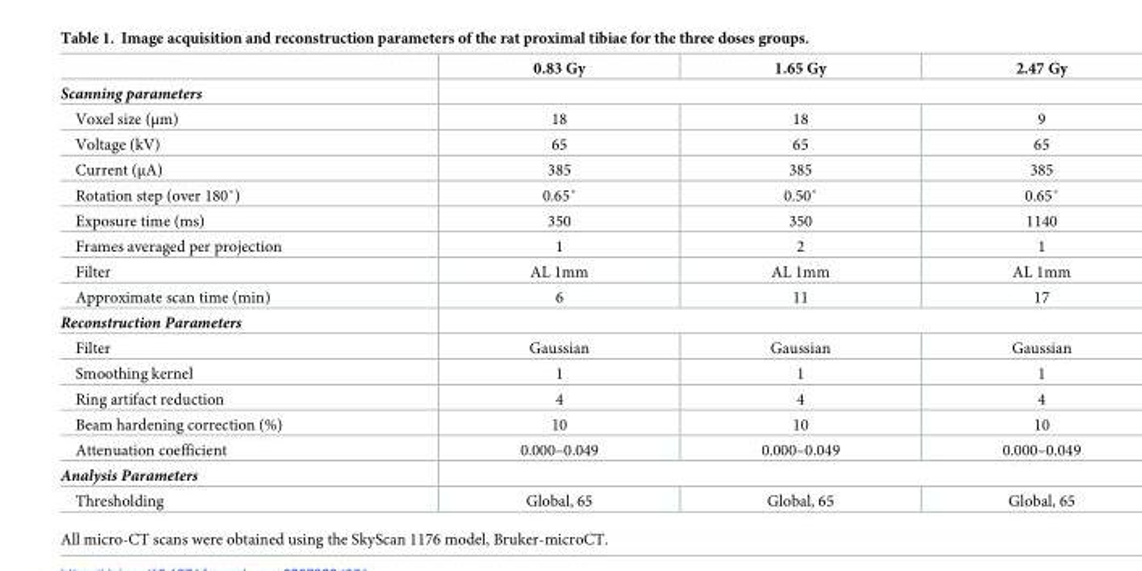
<table><thead><tr><td></td><td>0.83 Gy</td><td>1.65 Gy</td><td>2.47 Gy</td></tr></thead><tbody><tr><td colspan="4">Scanning parameters</td></tr><tr><td>Voxel size (μm)</td><td>18</td><td>18</td><td>9</td></tr><tr><td>Voltage (kV)</td><td>65</td><td>65</td><td>65</td></tr><tr><td>Current (μA)</td><td>385</td><td>385</td><td>385</td></tr><tr><td>Rotation step (over 180˚)</td><td>0.65˚</td><td>0.50˚</td><td>0.65˚</td></tr><tr><td>Exposure time (ms)</td><td>350</td><td>350</td><td>1140</td></tr><tr><td>Frames averaged per projection</td><td>1</td><td>2</td><td>1</td></tr><tr><td>Filter</td><td>AL 1mm</td><td>AL 1mm</td><td>AL 1mm</td></tr><tr><td>Approximate scan time (min)</td><td>6</td><td>11</td><td>17</td></tr><tr><td colspan="4">Reconstruction Parameters</td></tr><tr><td>Filter</td><td>Gaussian</td><td>Gaussian</td><td>Gaussian</td></tr><tr><td>Smoothing kernel</td><td>1</td><td>1</td><td>1</td></tr><tr><td>Ring artifact reduction</td><td>4</td><td>4</td><td>4</td></tr><tr><td>Beam hardening correction (%)</td><td>10</td><td>10</td><td>10</td></tr><tr><td>Attenuation coefficient</td><td>0.000–0.049</td><td>0.000–0.049</td><td>0.000–0.049</td></tr><tr><td colspan="4">Analysis Parameters</td></tr><tr><td>Thresholding</td><td>Global, 65</td><td>Global, 65</td><td>Global, 65</td></tr></tbody></table>